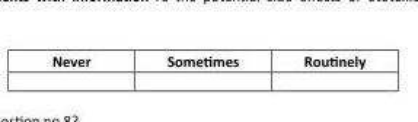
<table><thead><tr><td>Never</td><td>Sometimes</td><td>Routinely</td></tr></thead><tbody></tbody></table>